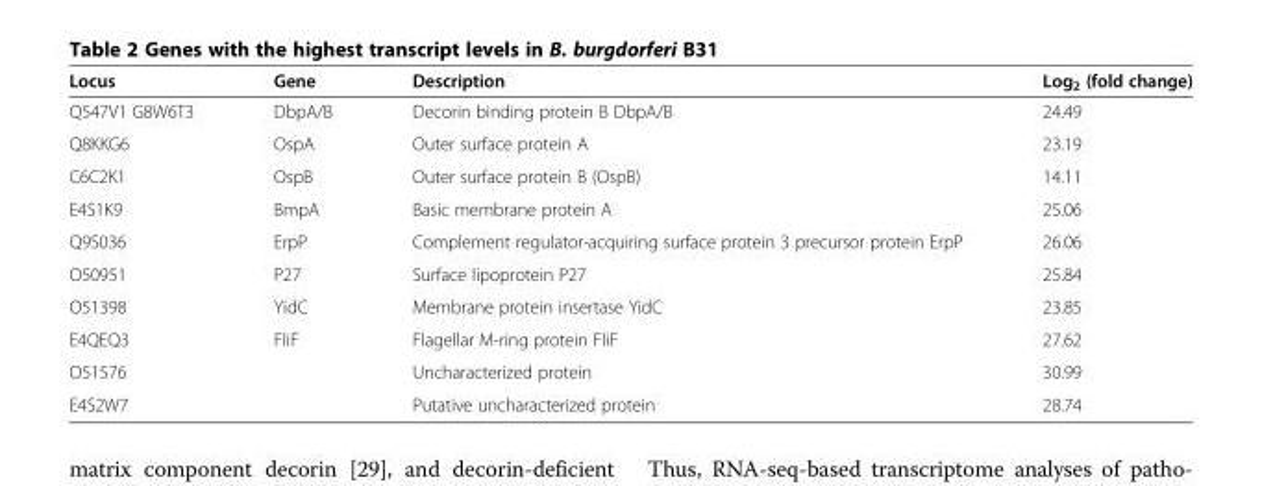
<table><thead><tr><td>Locus</td><td>Gene</td><td>Description</td><td>Log<sub>2</sub> (fold change)</td></tr></thead><tbody><tr><td>Q547V1 G8W6T3</td><td>DbpA/B</td><td>Decorin binding protein B DbpA/B</td><td>24.49</td></tr><tr><td>Q8KKG6</td><td>OspA</td><td>Outer surface protein A</td><td>23.19</td></tr><tr><td>C6C2K1</td><td>OspB</td><td>Outer surface protein B (OspB)</td><td>14.11</td></tr><tr><td>E4S1K9</td><td>BmpA</td><td>Basic membrane protein A</td><td>25.06</td></tr><tr><td>Q9S036</td><td>ErpP</td><td>Complement regulator-acquiring surface protein 3 precursor protein ErpP</td><td>26.06</td></tr><tr><td>O50951</td><td>P27</td><td>Surface lipoprotein P27</td><td>25.84</td></tr><tr><td>O51398</td><td>YidC</td><td>Membrane protein insertase YidC</td><td>23.85</td></tr><tr><td>E4QEQ3</td><td>FliF</td><td>Flagellar M-ring protein FliF</td><td>27.62</td></tr><tr><td>O51576</td><td></td><td>Uncharacterized protein</td><td>30.99</td></tr><tr><td>E4S2W7</td><td></td><td>Putative uncharacterized protein</td><td>28.74</td></tr></tbody></table>